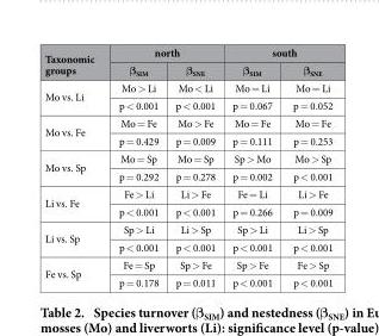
<table><thead><tr><td rowspan="2">Taxonomic groups</td><td colspan="2">north</td><td colspan="2">south</td></tr><tr><td>β<sub>SIM</sub></td><td>β<sub>SNE</sub></td><td>β<sub>SIM</sub></td><td>β<sub>SNE</sub></td></tr></thead><tbody><tr><td rowspan="2">Mo vs. Li</td><td>Mo &gt; Li</td><td>Mo &lt; Li</td><td>Mo = Li</td><td>Mo = Li</td></tr><tr><td>p &lt; 0.001</td><td>p &lt; 0.001</td><td>p = 0.067</td><td>p = 0.052</td></tr><tr><td rowspan="2">Mo vs. Fe</td><td>Mo = Fe</td><td>Mo &gt; Fe</td><td>Mo = Fe</td><td>Mo = Fe</td></tr><tr><td>p = 0.429</td><td>p = 0.009</td><td>p = 0.111</td><td>p = 0.253</td></tr><tr><td rowspan="2">Mo vs. Sp</td><td>Mo = Sp</td><td>Mo = Sp</td><td>Sp &gt; Mo</td><td>Mo &gt; Sp</td></tr><tr><td>p = 0.292</td><td>p = 0.278</td><td>p = 0.002</td><td>p &lt; 0.001</td></tr><tr><td rowspan="2">Li vs. Fe</td><td>Fe &gt; Li</td><td>Li &gt; Fe</td><td>Fe = Li</td><td>Li &gt; Fe</td></tr><tr><td>p &lt; 0.001</td><td>p &lt; 0.001</td><td>p = 0.266</td><td>p = 0.009</td></tr><tr><td rowspan="2">Li vs. Sp</td><td>Sp &gt; Li</td><td>Li &gt; Sp</td><td>Sp &gt; Li</td><td>Li &gt; Sp</td></tr><tr><td>p &lt; 0.001</td><td>p &lt; 0.001</td><td>p &lt; 0.001</td><td>p &lt; 0.001</td></tr><tr><td rowspan="2">Fe vs. Sp</td><td>Fe = Sp</td><td>Sp &gt; Fe</td><td>Sp &gt; Fe</td><td>Fe &gt; Sp</td></tr><tr><td>p = 0.178</td><td>p = 0.011</td><td>p &lt; 0.001</td><td>p &lt; 0.001</td></tr></tbody></table>